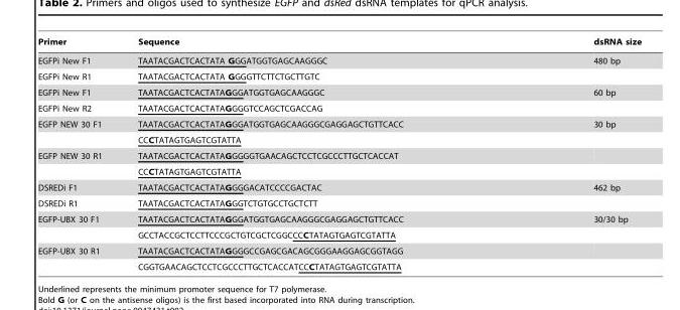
<table><thead><tr><td>Primer</td><td>Sequence</td><td>dsRNA size</td></tr></thead><tbody><tr><td>EGFPi New F1</td><td>TAATACGACTCACTATA GGGATGGTGAGCAAGGGC</td><td>480 bp</td></tr><tr><td>EGFPi New R1</td><td>TAATACGACTCACTATA GGGGTTCTTCTGCTTGTC</td><td></td></tr><tr><td>EGFPi New F1</td><td>TAATACGACTCACTATAGGGATGGTGAGCAAGGGC</td><td>60 bp</td></tr><tr><td>EGFPi New R2</td><td>TAATACGACTCACTATAGGGGTCCAGCTCGACCAG</td><td></td></tr><tr><td rowspan="2">EGFP NEW 30 F1</td><td>TAATACGACTCACTATAGGGATGGTGAGCAAGGGCGAGGAGCTGTTCACC</td><td>30 bp</td></tr><tr><td>CCCTATAGTGAGTCGTATTA</td><td></td></tr><tr><td rowspan="2">EGFP NEW 30 R1</td><td>TAATACGACTCACTATAGGGGGTGAACAGCTCCTCGCCCTTGCTCACCAT</td><td></td></tr><tr><td>CCCTATAGTGAGTCGTATTA</td><td></td></tr><tr><td>DSREDi F1</td><td>TAATACGACTCACTATAGGGGACATCCCCGACTAC</td><td>462 bp</td></tr><tr><td>DSREDi R1</td><td>TAATACGACTCACTATAGGGTCTGTGCCTGCTCTT</td><td></td></tr><tr><td rowspan="2">EGFP-UBX 30 F1</td><td>TAATACGACTCACTATAGGGATGGTGAGCAAGGGCGAGGAGCTGTTCACC</td><td>30/30 bp</td></tr><tr><td>GCCTACCGCTCCTTCCCGCTGTCGCTCGGCCCCTATAGTGAGTCGTATTA</td><td></td></tr><tr><td rowspan="2">EGFP-UBX 30 R1</td><td>TAATACGACTCACTATAGGGGCCGAGCGACAGCGGGAAGGAGCGGTAGG</td><td></td></tr><tr><td>CGGTGAACAGCTCCTCGCCCTTGCTCACCATCCCTATAGTGAGTCGTATTA</td><td></td></tr></tbody></table>